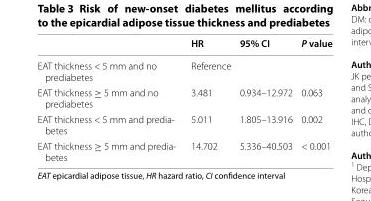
<table><thead><tr><td></td><td>HR</td><td>95% CI</td><td>P value</td></tr></thead><tbody><tr><td>EAT thickness &lt; 5 mm and no prediabetes</td><td colspan="3">Reference</td></tr><tr><td>EAT thickness ≥ 5 mm and no prediabetes</td><td>3.481</td><td>0.934–12.972</td><td>0.063</td></tr><tr><td>EAT thickness &lt; 5 mm and predia‑ betes</td><td>5.011</td><td>1.805–13.916</td><td>0.002</td></tr><tr><td>EAT thickness ≥ 5 mm and predia‑ betes</td><td>14.702</td><td>5.336–40.503</td><td>&lt; 0.001</td></tr></tbody></table>